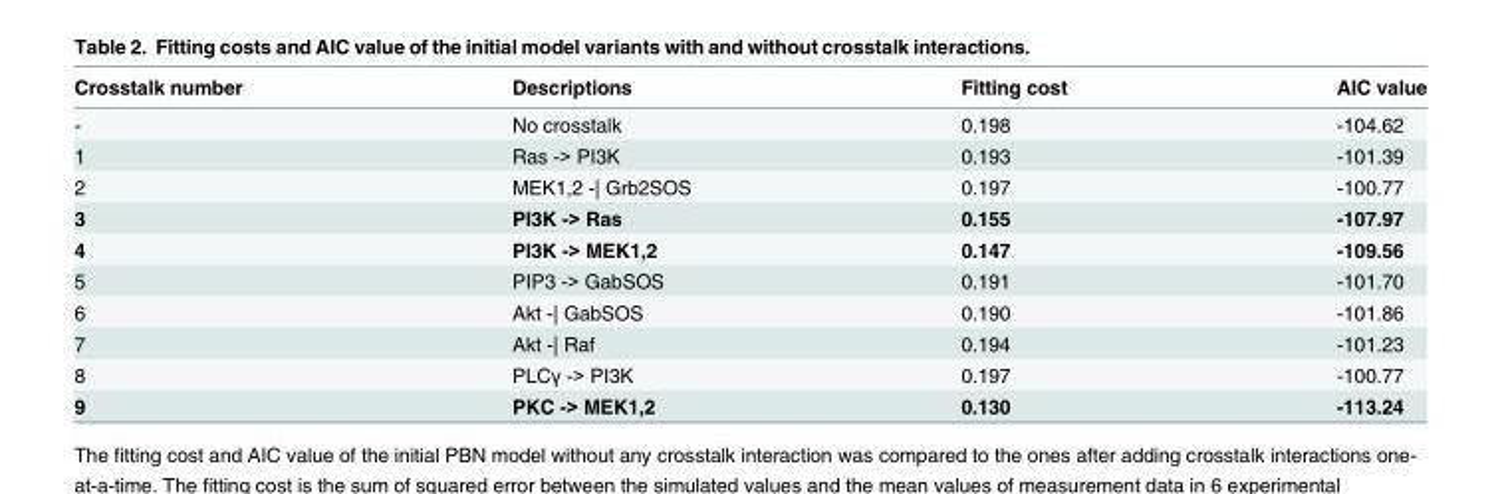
<table><thead><tr><td>Crosstalk number</td><td>Descriptions</td><td>Fitting cost</td><td>AIC value</td></tr></thead><tbody><tr><td>-</td><td>No crosstalk</td><td>0.198</td><td>-104.62</td></tr><tr><td>1</td><td>Ras -&gt; PI3K</td><td>0.193</td><td>-101.39</td></tr><tr><td>2</td><td>MEK1,2 -| Grb2SOS</td><td>0.197</td><td>-100.77</td></tr><tr><td>3</td><td>PI3K -&gt; Ras</td><td>0.155</td><td>-107.97</td></tr><tr><td>4</td><td>PI3K -&gt; MEK1,2</td><td>0.147</td><td>-109.56</td></tr><tr><td>5</td><td>PIP3 -&gt; GabSOS</td><td>0.191</td><td>-101.70</td></tr><tr><td>6</td><td>Akt -| GabSOS</td><td>0.190</td><td>-101.86</td></tr><tr><td>7</td><td>Akt -| Raf</td><td>0.194</td><td>-101.23</td></tr><tr><td>8</td><td>PLCγ -&gt; PI3K</td><td>0.197</td><td>-100.77</td></tr><tr><td>9</td><td>PKC -&gt; MEK1,2</td><td>0.130</td><td>-113.24</td></tr></tbody></table>